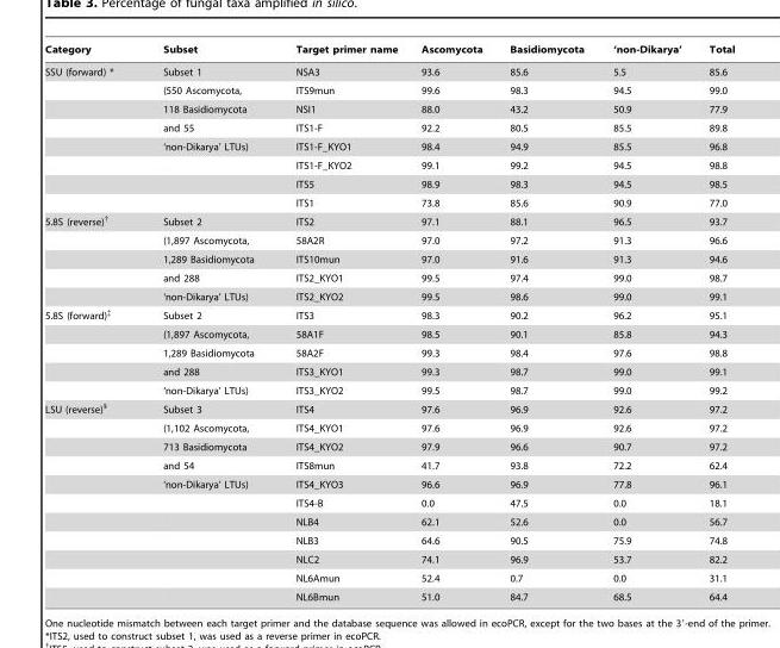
<table><thead><tr><td>Category</td><td>Subset</td><td>Target primer name</td><td>Ascomycota</td><td>Basidiomycota</td><td>‘non-Dikarya’</td><td>Total</td></tr></thead><tbody><tr><td rowspan="8">SSU (forward) *</td><td>Subset 1</td><td>NSA3</td><td>93.6</td><td>85.6</td><td>5.5</td><td>85.6</td></tr><tr><td>(550 Ascomycota,</td><td>ITS9mun</td><td>99.6</td><td>98.3</td><td>94.5</td><td>99.0</td></tr><tr><td>118 Basidiomycota</td><td>NSI1</td><td>88.0</td><td>43.2</td><td>50.9</td><td>77.9</td></tr><tr><td>and 55</td><td>ITS1-F</td><td>92.2</td><td>80.5</td><td>85.5</td><td>89.8</td></tr><tr><td>‘non-Dikarya’ LTUs)</td><td>ITS1-F_KYO1</td><td>98.4</td><td>94.9</td><td>85.5</td><td>96.8</td></tr><tr><td></td><td>ITS1-F_KYO2</td><td>99.1</td><td>99.2</td><td>94.5</td><td>98.8</td></tr><tr><td></td><td>ITS5</td><td>98.9</td><td>98.3</td><td>94.5</td><td>98.5</td></tr><tr><td></td><td>ITS1</td><td>73.8</td><td>85.6</td><td>90.9</td><td>77.0</td></tr><tr><td rowspan="5">5.8S (reverse)†</td><td>Subset 2</td><td>ITS2</td><td>97.1</td><td>88.1</td><td>96.5</td><td>93.7</td></tr><tr><td>(1,897 Ascomycota,</td><td>58A2R</td><td>97.0</td><td>97.2</td><td>91.3</td><td>96.6</td></tr><tr><td>1,289 Basidiomycota</td><td>ITS10mun</td><td>97.0</td><td>91.6</td><td>91.3</td><td>94.6</td></tr><tr><td>and 288</td><td>ITS2_KYO1</td><td>99.5</td><td>97.4</td><td>99.0</td><td>98.7</td></tr><tr><td>‘non-Dikarya’ LTUs)</td><td>ITS2_KYO2</td><td>99.5</td><td>98.6</td><td>99.0</td><td>99.1</td></tr><tr><td rowspan="5">5.8S (forward)‡</td><td>Subset 2</td><td>ITS3</td><td>98.3</td><td>90.2</td><td>96.2</td><td>95.1</td></tr><tr><td>(1,897 Ascomycota,</td><td>58A1F</td><td>98.5</td><td>90.1</td><td>85.8</td><td>94.3</td></tr><tr><td>1,289 Basidiomycota</td><td>58A2F</td><td>99.3</td><td>98.4</td><td>97.6</td><td>98.8</td></tr><tr><td>and 288</td><td>ITS3_KYO1</td><td>99.3</td><td>98.7</td><td>99.0</td><td>99.1</td></tr><tr><td>‘non-Dikarya’ LTUs)</td><td>ITS3_KYO2</td><td>99.5</td><td>98.7</td><td>99.0</td><td>99.2</td></tr><tr><td rowspan="11">LSU (reverse)§</td><td>Subset 3</td><td>ITS4</td><td>97.6</td><td>96.9</td><td>92.6</td><td>97.2</td></tr><tr><td>(1,102 Ascomycota,</td><td>ITS4_KYO1</td><td>97.6</td><td>96.9</td><td>92.6</td><td>97.2</td></tr><tr><td>713 Basidiomycota</td><td>ITS4_KYO2</td><td>97.9</td><td>96.6</td><td>90.7</td><td>97.2</td></tr><tr><td>and 54</td><td>ITS8mun</td><td>41.7</td><td>93.8</td><td>72.2</td><td>62.4</td></tr><tr><td>‘non-Dikarya’ LTUs)</td><td>ITS4_KYO3</td><td>96.6</td><td>96.9</td><td>77.8</td><td>96.1</td></tr><tr><td></td><td>ITS4-B</td><td>0.0</td><td>47.5</td><td>0.0</td><td>18.1</td></tr><tr><td></td><td>NLB4</td><td>62.1</td><td>52.6</td><td>0.0</td><td>56.7</td></tr><tr><td></td><td>NLB3</td><td>64.6</td><td>90.5</td><td>75.9</td><td>74.8</td></tr><tr><td></td><td>NLC2</td><td>74.1</td><td>96.9</td><td>53.7</td><td>82.2</td></tr><tr><td></td><td>NL6Amun</td><td>52.4</td><td>0.7</td><td>0.0</td><td>31.1</td></tr><tr><td></td><td>NL6Bmun</td><td>51.0</td><td>84.7</td><td>68.5</td><td>64.4</td></tr></tbody></table>